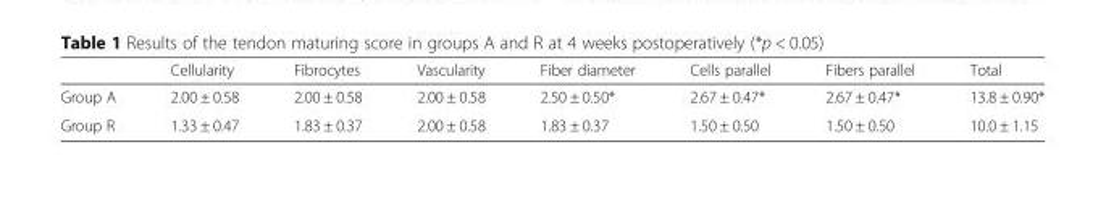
<table><thead><tr><td></td><td>Cellularity</td><td>Fibrocytes</td><td>Vascularity</td><td>Fiber diameter</td><td>Cells parallel</td><td>Fibers parallel</td><td>Total</td></tr></thead><tbody><tr><td>Group A</td><td>2.00 ± 0.58</td><td>2.00 ± 0.58</td><td>2.00 ± 0.58</td><td>2.50 ± 0.50*</td><td>2.67 ± 0.47*</td><td>2.67 ± 0.47*</td><td>13.8 ± 0.90*</td></tr><tr><td>Group R</td><td>1.33 ± 0.47</td><td>1.83 ± 0.37</td><td>2.00 ± 0.58</td><td>1.83 ± 0.37</td><td>1.50 ± 0.50</td><td>1.50 ± 0.50</td><td>10.0 ± 1.15</td></tr></tbody></table>